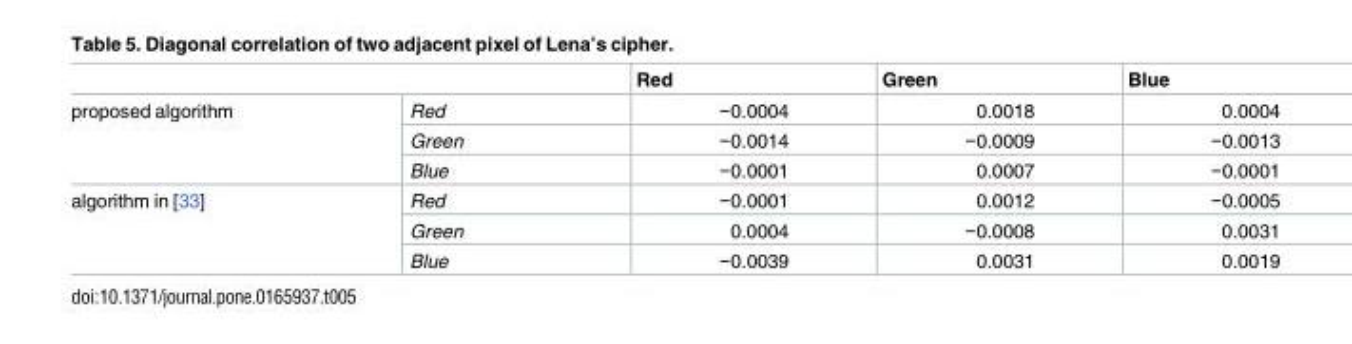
<table><thead><tr><td></td><td></td><td>Red</td><td>Green</td><td>Blue</td></tr></thead><tbody><tr><td rowspan="3">proposed algorithm</td><td>Red</td><td>−0.0004</td><td>0.0018</td><td>0.0004</td></tr><tr><td>Green</td><td>−0.0014</td><td>−0.0009</td><td>−0.0013</td></tr><tr><td>Blue</td><td>−0.0001</td><td>0.0007</td><td>−0.0001</td></tr><tr><td rowspan="3">algorithm in [33]</td><td>Red</td><td>−0.0001</td><td>0.0012</td><td>−0.0005</td></tr><tr><td>Green</td><td>0.0004</td><td>−0.0008</td><td>0.0031</td></tr><tr><td>Blue</td><td>−0.0039</td><td>0.0031</td><td>0.0019</td></tr></tbody></table>